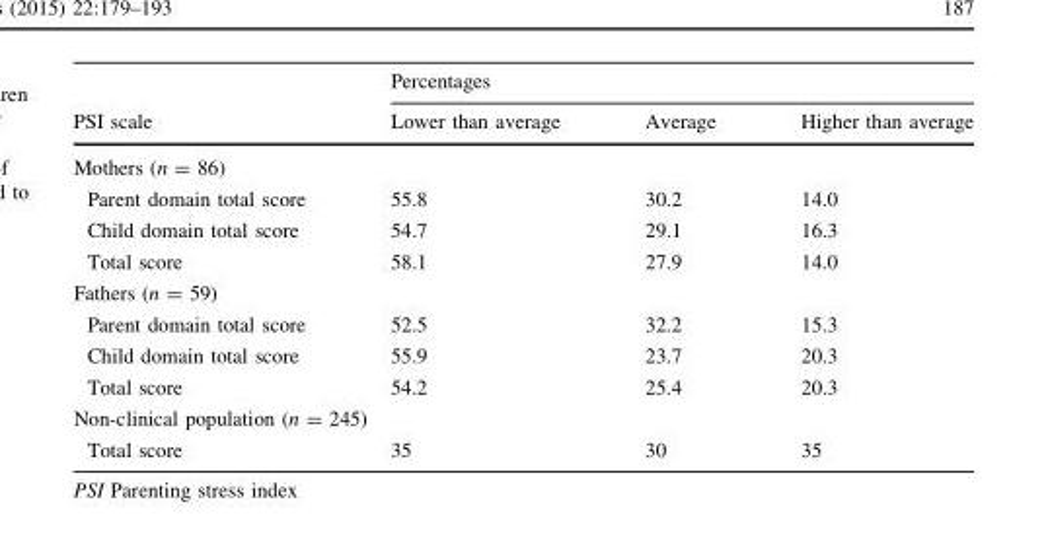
<table><thead><tr><td rowspan="2">PSI scale</td><td colspan="3">Percentages</td></tr><tr><td>Lower than average</td><td>Average</td><td>Higher than average</td></tr></thead><tbody><tr><td colspan="4">Mothers (n = 86)</td></tr><tr><td>Parent domain total score</td><td>55.8</td><td>30.2</td><td>14.0</td></tr><tr><td>Child domain total score</td><td>54.7</td><td>29.1</td><td>16.3</td></tr><tr><td>Total score</td><td>58.1</td><td>27.9</td><td>14.0</td></tr><tr><td colspan="4">Fathers (n = 59)</td></tr><tr><td>Parent domain total score</td><td>52.5</td><td>32.2</td><td>15.3</td></tr><tr><td>Child domain total score</td><td>55.9</td><td>23.7</td><td>20.3</td></tr><tr><td>Total score</td><td>54.2</td><td>25.4</td><td>20.3</td></tr><tr><td colspan="4">Non-clinical population (n = 245)</td></tr><tr><td>Total score</td><td>35</td><td>30</td><td>35</td></tr></tbody></table>